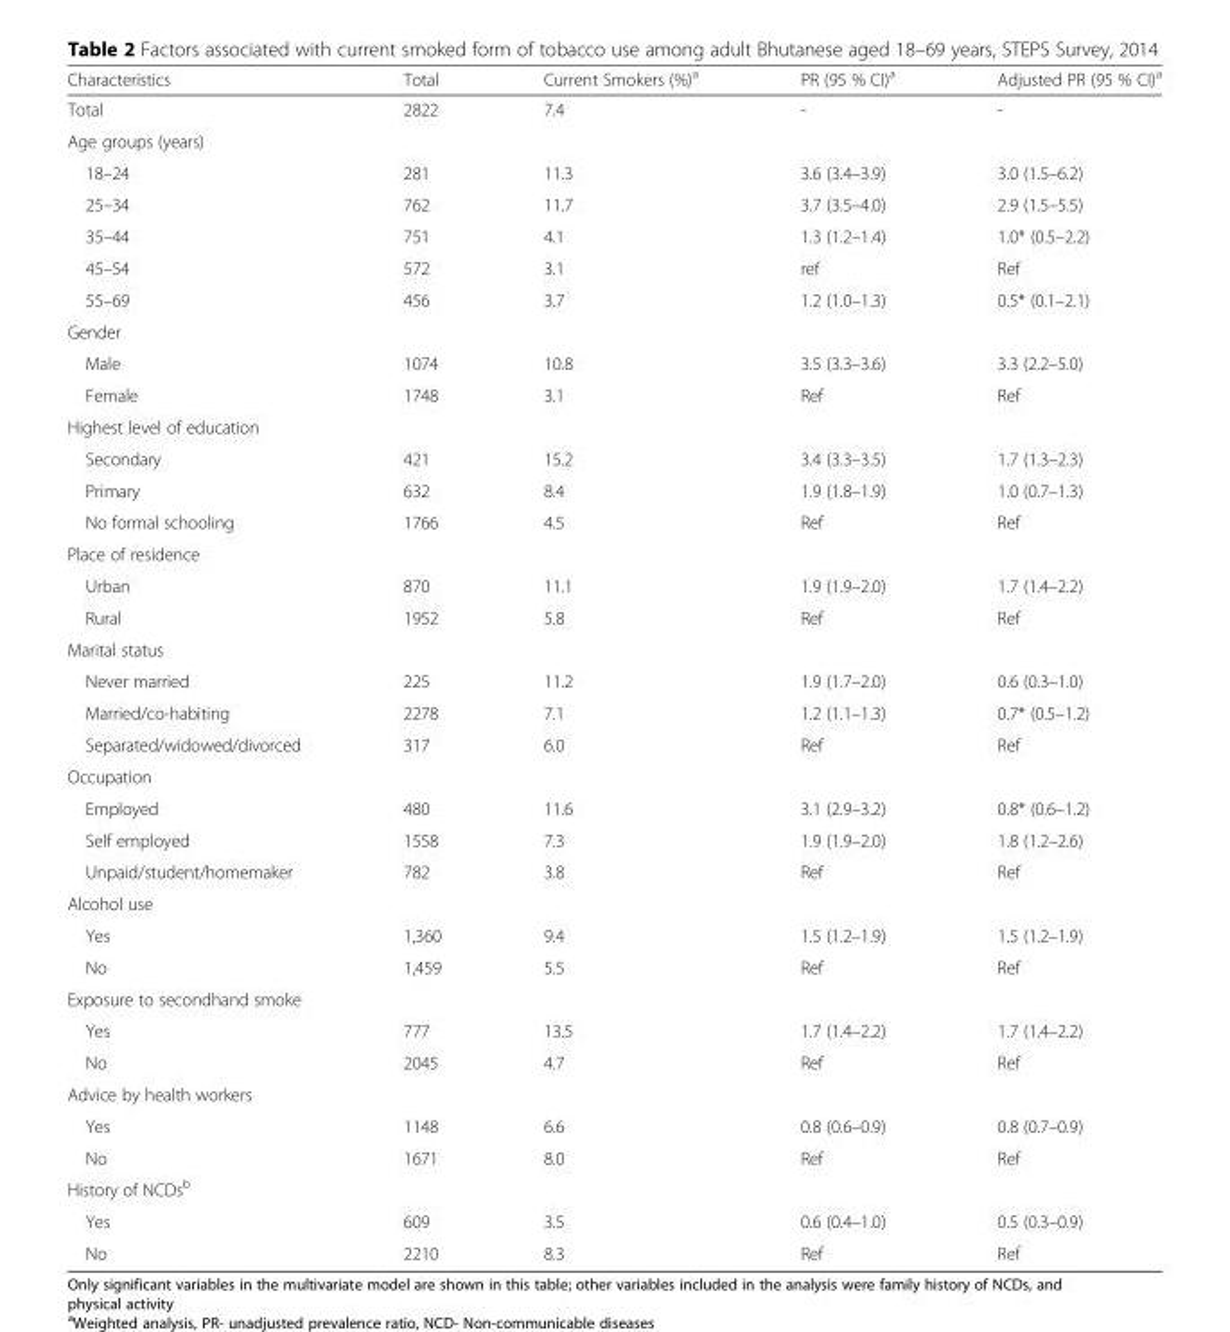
<table><thead><tr><td>Characteristics</td><td>Total</td><td>Current Smokers (%)<sup>a</sup></td><td>PR (95 % CI)<sup>a</sup></td><td>Adjusted PR (95 % CI)<sup>a</sup></td></tr></thead><tbody><tr><td>Total</td><td>2822</td><td>7.4</td><td>-</td><td>-</td></tr><tr><td colspan="5">Age groups (years)</td></tr><tr><td>18–24</td><td>281</td><td>11.3</td><td>3.6 (3.4–3.9)</td><td>3.0 (1.5–6.2)</td></tr><tr><td>25–34</td><td>762</td><td>11.7</td><td>3.7 (3.5–4.0)</td><td>2.9 (1.5–5.5)</td></tr><tr><td>35–44</td><td>751</td><td>4.1</td><td>1.3 (1.2–1.4)</td><td>1.0* (0.5–2.2)</td></tr><tr><td>45–54</td><td>572</td><td>3.1</td><td>ref</td><td>Ref</td></tr><tr><td>55–69</td><td>456</td><td>3.7</td><td>1.2 (1.0–1.3)</td><td>0.5* (0.1–2.1)</td></tr><tr><td colspan="5">Gender</td></tr><tr><td>Male</td><td>1074</td><td>10.8</td><td>3.5 (3.3–3.6)</td><td>3.3 (2.2–5.0)</td></tr><tr><td>Female</td><td>1748</td><td>3.1</td><td>Ref</td><td>Ref</td></tr><tr><td colspan="5">Highest level of education</td></tr><tr><td>Secondary</td><td>421</td><td>15.2</td><td>3.4 (3.3–3.5)</td><td>1.7 (1.3–2.3)</td></tr><tr><td>Primary</td><td>632</td><td>8.4</td><td>1.9 (1.8–1.9)</td><td>1.0 (0.7–1.3)</td></tr><tr><td>No formal schooling</td><td>1766</td><td>4.5</td><td>Ref</td><td>Ref</td></tr><tr><td colspan="5">Place of residence</td></tr><tr><td>Urban</td><td>870</td><td>11.1</td><td>1.9 (1.9–2.0)</td><td>1.7 (1.4–2.2)</td></tr><tr><td>Rural</td><td>1952</td><td>5.8</td><td>Ref</td><td>Ref</td></tr><tr><td colspan="5">Marital status</td></tr><tr><td>Never married</td><td>225</td><td>11.2</td><td>1.9 (1.7–2.0)</td><td>0.6 (0.3–1.0)</td></tr><tr><td>Married/co-habiting</td><td>2278</td><td>7.1</td><td>1.2 (1.1–1.3)</td><td>0.7* (0.5–1.2)</td></tr><tr><td>Separated/widowed/divorced</td><td>317</td><td>6.0</td><td>Ref</td><td>Ref</td></tr><tr><td colspan="5">Occupation</td></tr><tr><td>Employed</td><td>480</td><td>11.6</td><td>3.1 (2.9–3.2)</td><td>0.8* (0.6–1.2)</td></tr><tr><td>Self employed</td><td>1558</td><td>7.3</td><td>1.9 (1.9–2.0)</td><td>1.8 (1.2–2.6)</td></tr><tr><td>Unpaid/student/homemaker</td><td>782</td><td>3.8</td><td>Ref</td><td>Ref</td></tr><tr><td colspan="5">Alcohol use</td></tr><tr><td>Yes</td><td>1,360</td><td>9.4</td><td>1.5 (1.2–1.9)</td><td>1.5 (1.2–1.9)</td></tr><tr><td>No</td><td>1,459</td><td>5.5</td><td>Ref</td><td>Ref</td></tr><tr><td colspan="5">Exposure to secondhand smoke</td></tr><tr><td>Yes</td><td>777</td><td>13.5</td><td>1.7 (1.4–2.2)</td><td>1.7 (1.4–2.2)</td></tr><tr><td>No</td><td>2045</td><td>4.7</td><td>Ref</td><td>Ref</td></tr><tr><td colspan="5">Advice by health workers</td></tr><tr><td>Yes</td><td>1148</td><td>6.6</td><td>0.8 (0.6–0.9)</td><td>0.8 (0.7–0.9)</td></tr><tr><td>No</td><td>1671</td><td>8.0</td><td>Ref</td><td>Ref</td></tr><tr><td colspan="5">History of NCDs<sup>b</sup></td></tr><tr><td>Yes</td><td>609</td><td>3.5</td><td>0.6 (0.4–1.0)</td><td>0.5 (0.3–0.9)</td></tr><tr><td>No</td><td>2210</td><td>8.3</td><td>Ref</td><td>Ref</td></tr></tbody></table>